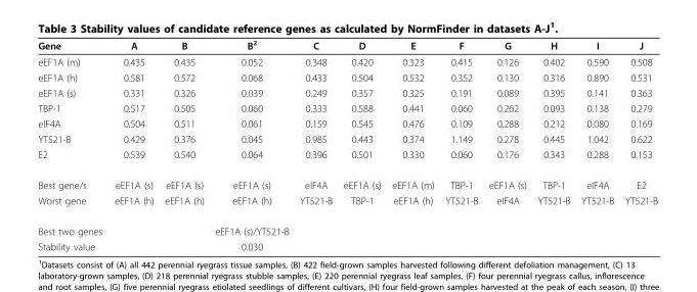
<table><thead><tr><td>Gene</td><td>A</td><td>B</td><td>B<sup>2</sup></td><td>C</td><td>D</td><td>E</td><td>F</td><td>G</td><td>H</td><td>I</td><td>J</td></tr></thead><tbody><tr><td>eEF1A (m)</td><td>0.435</td><td>0.435</td><td>0.052</td><td>0.348</td><td>0.420</td><td>0.323</td><td>0.415</td><td>0.126</td><td>0.402</td><td>0.590</td><td>0.508</td></tr><tr><td>eEF1A (h)</td><td>0.581</td><td>0.572</td><td>0.068</td><td>0.433</td><td>0.504</td><td>0.532</td><td>0.352</td><td>0.130</td><td>0.316</td><td>0.890</td><td>0.531</td></tr><tr><td>eEF1A (s)</td><td>0.331</td><td>0.326</td><td>0.039</td><td>0.249</td><td>0.357</td><td>0.325</td><td>0.191</td><td>0.089</td><td>0.395</td><td>0.141</td><td>0.363</td></tr><tr><td>TBP-1</td><td>0.517</td><td>0.505</td><td>0.060</td><td>0.333</td><td>0.588</td><td>0.441</td><td>0.060</td><td>0.262</td><td>0.093</td><td>0.138</td><td>0.279</td></tr><tr><td>eIF4A</td><td>0.504</td><td>0.511</td><td>0.061</td><td>0.159</td><td>0.545</td><td>0.476</td><td>0.109</td><td>0.288</td><td>0.212</td><td>0.080</td><td>0.169</td></tr><tr><td>YT521-B</td><td>0.429</td><td>0.376</td><td>0.045</td><td>0.985</td><td>0.443</td><td>0.374</td><td>1.149</td><td>0.278</td><td>0.445</td><td>1.042</td><td>0.622</td></tr><tr><td>E2</td><td>0.539</td><td>0.540</td><td>0.064</td><td>0.396</td><td>0.501</td><td>0.330</td><td>0.060</td><td>0.176</td><td>0.343</td><td>0.288</td><td>0.153</td></tr><tr><td>Best gene/s</td><td>eEF1A (s)</td><td>eEF1A (s)</td><td>eEF1A (s)</td><td>eIF4A</td><td>eEF1A (s)</td><td>eEF1A (m)</td><td>TBP-1</td><td>eEF1A (s)</td><td>TBP-1</td><td>eIF4A</td><td>E2</td></tr><tr><td>Worst gene</td><td>eEF1A (h)</td><td>eEF1A (h)</td><td>eEF1A (h)</td><td>YT521-B</td><td>TBP-1</td><td>eEF1A (h)</td><td>YT521-B</td><td>eIF4A</td><td>YT521-B</td><td>YT521-B</td><td>YT521-B</td></tr><tr><td>Best two genes</td><td></td><td></td><td>eEF1A (s)/YT521-B</td><td></td><td></td><td></td><td></td><td></td><td></td><td></td><td></td></tr><tr><td>Stability value</td><td></td><td></td><td>0.030</td><td></td><td></td><td></td><td></td><td></td><td></td><td></td><td></td></tr></tbody></table>